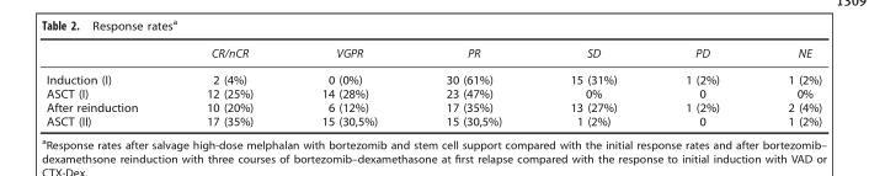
<table><thead><tr><td></td><td>CR/nCR</td><td>VGPR</td><td>PR</td><td>SD</td><td>PD</td><td>NE</td></tr></thead><tbody><tr><td>Induction (I)</td><td>2 (4%)</td><td>0 (0%)</td><td>30 (61%)</td><td>15 (31%)</td><td>1 (2%)</td><td>1 (2%)</td></tr><tr><td>ASCT (I)</td><td>12 (25%)</td><td>14 (28%)</td><td>23 (47%)</td><td>0%</td><td>0</td><td>0%</td></tr><tr><td>After reinduction</td><td>10 (20%)</td><td>6 (12%)</td><td>17 (35%)</td><td>13 (27%)</td><td>1 (2%)</td><td>2 (4%)</td></tr><tr><td>ASCT (II)</td><td>17 (35%)</td><td>15 (30,5%)</td><td>15 (30,5%)</td><td>1 (2%)</td><td>0</td><td>1 (2%)</td></tr></tbody></table>